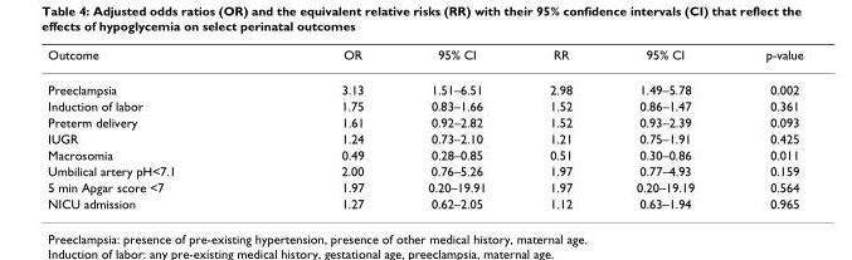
<table><thead><tr><td>Outcome</td><td>OR</td><td>95% CI</td><td>RR</td><td>95% CI</td><td>p-value</td></tr></thead><tbody><tr><td>Preeclampsia</td><td>3.13</td><td>1.51–6.51</td><td>2.98</td><td>1.49–5.78</td><td>0.002</td></tr><tr><td>Induction of labor</td><td>1.75</td><td>0.83–1.66</td><td>1.52</td><td>0.86–1.47</td><td>0.361</td></tr><tr><td>Preterm delivery</td><td>1.61</td><td>0.92–2.82</td><td>1.52</td><td>0.93–2.39</td><td>0.093</td></tr><tr><td>IUGR</td><td>1.24</td><td>0.73–2.10</td><td>1.21</td><td>0.75–1.91</td><td>0.425</td></tr><tr><td>Macrosomia</td><td>0.49</td><td>0.28–0.85</td><td>0.51</td><td>0.30–0.86</td><td>0.011</td></tr><tr><td>Umbilical artery pH&lt;7.1</td><td>2.00</td><td>0.76–5.26</td><td>1.97</td><td>0.77–4.93</td><td>0.159</td></tr><tr><td>5 min Apgar score &lt;7</td><td>1.97</td><td>0.20–19.91</td><td>1.97</td><td>0.20–19.19</td><td>0.564</td></tr><tr><td>NICU admission</td><td>1.27</td><td>0.62–2.05</td><td>1.12</td><td>0.63–1.94</td><td>0.965</td></tr></tbody></table>